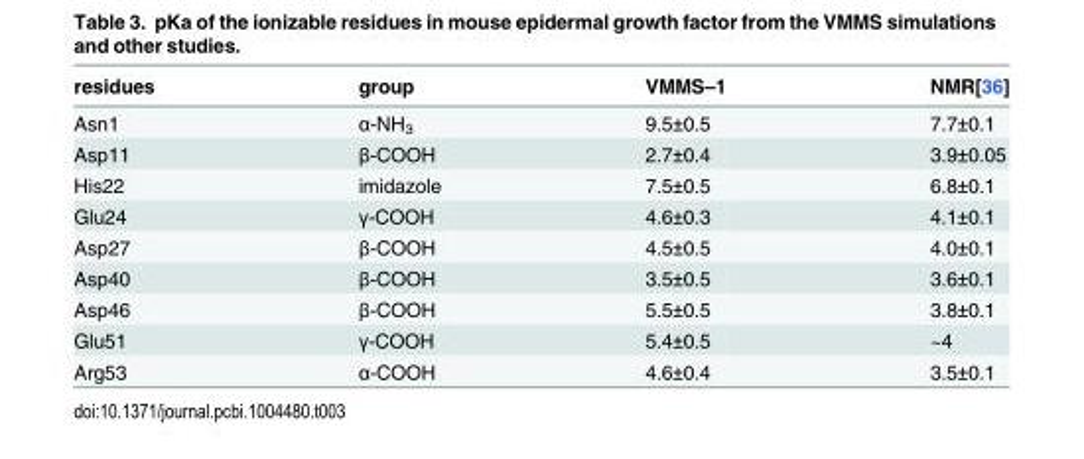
<table><thead><tr><td>residues</td><td>group</td><td>VMMS–1</td><td>NMR[36]</td></tr></thead><tbody><tr><td>Asn1</td><td>α-NH<sub>3</sub></td><td>9.5±0.5</td><td>7.7±0.1</td></tr><tr><td>Asp11</td><td>β-COOH</td><td>2.7±0.4</td><td>3.9±0.05</td></tr><tr><td>His22</td><td>imidazole</td><td>7.5±0.5</td><td>6.8±0.1</td></tr><tr><td>Glu24</td><td>γ-COOH</td><td>4.6±0.3</td><td>4.1±0.1</td></tr><tr><td>Asp27</td><td>β-COOH</td><td>4.5±0.5</td><td>4.0±0.1</td></tr><tr><td>Asp40</td><td>β-COOH</td><td>3.5±0.5</td><td>3.6±0.1</td></tr><tr><td>Asp46</td><td>β-COOH</td><td>5.5±0.5</td><td>3.8±0.1</td></tr><tr><td>Glu51</td><td>γ-COOH</td><td>5.4±0.5</td><td>~4</td></tr><tr><td>Arg53</td><td>α-COOH</td><td>4.6±0.4</td><td>3.5±0.1</td></tr></tbody></table>